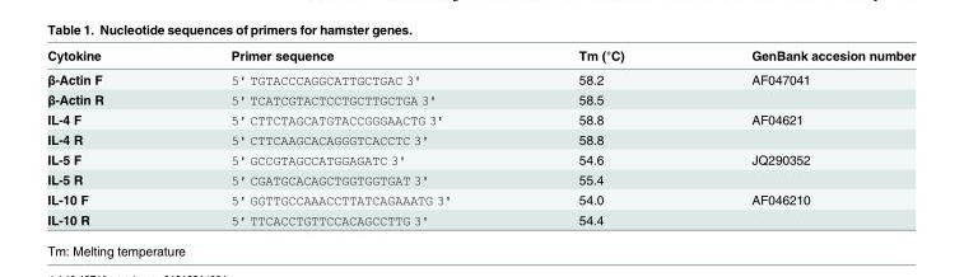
<table><thead><tr><td>Cytokine</td><td>Primer sequence</td><td>Tm (°C)</td><td>GenBank accesion number</td></tr></thead><tbody><tr><td>β-Actin F</td><td>5&#x27; TGTACCCAGGCATTGCTGAC 3&#x27;</td><td>58.2</td><td>AF047041</td></tr><tr><td>β-Actin R</td><td>5&#x27; TCATCGTACTCCTGCTTGCTGA 3&#x27;</td><td>58.5</td><td></td></tr><tr><td>IL-4 F</td><td>5&#x27; CTTCTAGCATGTACCGGGAACTG 3&#x27;</td><td>58.8</td><td>AF04621</td></tr><tr><td>IL-4 R</td><td>5&#x27; CTTCAAGCACAGGGTCACCTC 3&#x27;</td><td>58.8</td><td></td></tr><tr><td>IL-5 F</td><td>5&#x27; GCCGTAGCCATGGAGATC 3&#x27;</td><td>54.6</td><td>JQ290352</td></tr><tr><td>IL-5 R</td><td>5&#x27; CGATGCACAGCTGGTGGTGAT 3&#x27;</td><td>55.4</td><td></td></tr><tr><td>IL-10 F</td><td>5&#x27; GGTTGCCAAACCTTATCAGAAATG 3&#x27;</td><td>54.0</td><td>AF046210</td></tr><tr><td>IL-10 R</td><td>5&#x27; TTCACCTGTTCCACAGCCTTG 3&#x27;</td><td>54.4</td><td></td></tr></tbody></table>